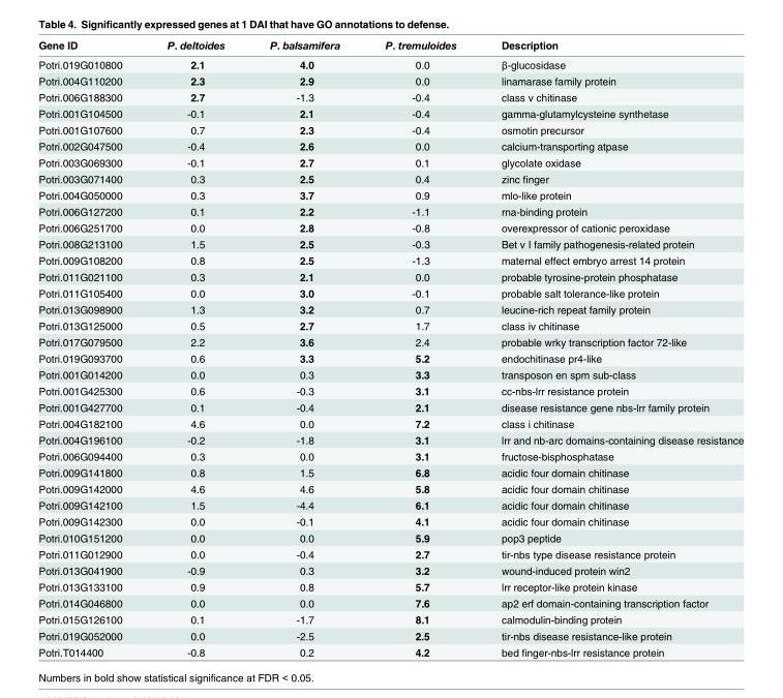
<table><thead><tr><td>Gene ID</td><td>P. deltoides</td><td>P. balsamifera</td><td>P. tremuloides</td><td>Description</td></tr></thead><tbody><tr><td>Potri.019G010800</td><td>2.1</td><td>4.0</td><td>0.0</td><td>β-glucosidase</td></tr><tr><td>Potri.004G110200</td><td>2.3</td><td>2.9</td><td>0.0</td><td>linamarase family protein</td></tr><tr><td>Potri.006G188300</td><td>2.7</td><td>-1.3</td><td>-0.4</td><td>class v chitinase</td></tr><tr><td>Potri.001G104500</td><td>-0.1</td><td>2.1</td><td>-0.4</td><td>gamma-glutamylcysteine synthetase</td></tr><tr><td>Potri.001G107600</td><td>0.7</td><td>2.3</td><td>-0.4</td><td>osmotin precursor</td></tr><tr><td>Potri.002G047500</td><td>-0.4</td><td>2.6</td><td>0.0</td><td>calcium-transporting atpase</td></tr><tr><td>Potri.003G069300</td><td>-0.1</td><td>2.7</td><td>0.1</td><td>glycolate oxidase</td></tr><tr><td>Potri.003G071400</td><td>0.3</td><td>2.5</td><td>0.4</td><td>zinc finger</td></tr><tr><td>Potri.004G050000</td><td>0.3</td><td>3.7</td><td>0.9</td><td>mlo-like protein</td></tr><tr><td>Potri.006G127200</td><td>0.1</td><td>2.2</td><td>-1.1</td><td>rna-binding protein</td></tr><tr><td>Potri.006G251700</td><td>0.0</td><td>2.8</td><td>-0.8</td><td>overexpressor of cationic peroxidase</td></tr><tr><td>Potri.008G213100</td><td>1.5</td><td>2.5</td><td>-0.3</td><td>Bet v I family pathogenesis-related protein</td></tr><tr><td>Potri.009G108200</td><td>0.8</td><td>2.5</td><td>-1.3</td><td>maternal effect embryo arrest 14 protein</td></tr><tr><td>Potri.011G021100</td><td>0.3</td><td>2.1</td><td>0.0</td><td>probable tyrosine-protein phosphatase</td></tr><tr><td>Potri.011G105400</td><td>0.0</td><td>3.0</td><td>-0.1</td><td>probable salt tolerance-like protein</td></tr><tr><td>Potri.013G098900</td><td>1.3</td><td>3.2</td><td>0.7</td><td>leucine-rich repeat family protein</td></tr><tr><td>Potri.013G125000</td><td>0.5</td><td>2.7</td><td>1.7</td><td>class iv chitinase</td></tr><tr><td>Potri.017G079500</td><td>2.2</td><td>3.6</td><td>2.4</td><td>probable wrky transcription factor 72-like</td></tr><tr><td>Potri.019G093700</td><td>0.6</td><td>3.3</td><td>5.2</td><td>endochitinase pr4-like</td></tr><tr><td>Potri.001G014200</td><td>0.0</td><td>0.3</td><td>3.3</td><td>transposon en spm sub-class</td></tr><tr><td>Potri.001G425300</td><td>0.6</td><td>-0.3</td><td>3.1</td><td>cc-nbs-lrr resistance protein</td></tr><tr><td>Potri.001G427700</td><td>0.1</td><td>-0.4</td><td>2.1</td><td>disease resistance gene nbs-lrr family protein</td></tr><tr><td>Potri.004G182100</td><td>4.6</td><td>0.0</td><td>7.2</td><td>class i chitinase</td></tr><tr><td>Potri.004G196100</td><td>-0.2</td><td>-1.8</td><td>3.1</td><td>lrr and nb-arc domains-containing disease resistance</td></tr><tr><td>Potri.006G094400</td><td>0.3</td><td>0.0</td><td>3.1</td><td>fructose-bisphosphatase</td></tr><tr><td>Potri.009G141800</td><td>0.8</td><td>1.5</td><td>6.8</td><td>acidic four domain chitinase</td></tr><tr><td>Potri.009G142000</td><td>4.6</td><td>4.6</td><td>5.8</td><td>acidic four domain chitinase</td></tr><tr><td>Potri.009G142100</td><td>1.5</td><td>-4.4</td><td>6.1</td><td>acidic four domain chitinase</td></tr><tr><td>Potri.009G142300</td><td>0.0</td><td>-0.1</td><td>4.1</td><td>acidic four domain chitinase</td></tr><tr><td>Potri.010G151200</td><td>0.0</td><td>0.0</td><td>5.9</td><td>pop3 peptide</td></tr><tr><td>Potri.011G012900</td><td>0.0</td><td>-0.4</td><td>2.7</td><td>tir-nbs type disease resistance protein</td></tr><tr><td>Potri.013G041900</td><td>-0.9</td><td>0.3</td><td>3.2</td><td>wound-induced protein win2</td></tr><tr><td>Potri.013G133100</td><td>0.9</td><td>0.8</td><td>5.7</td><td>lrr receptor-like protein kinase</td></tr><tr><td>Potri.014G046800</td><td>0.0</td><td>0.0</td><td>7.6</td><td>ap2 erf domain-containing transcription factor</td></tr><tr><td>Potri.015G126100</td><td>0.1</td><td>-1.7</td><td>8.1</td><td>calmodulin-binding protein</td></tr><tr><td>Potri.019G052000</td><td>0.0</td><td>-2.5</td><td>2.5</td><td>tir-nbs disease resistance-like protein</td></tr><tr><td>Potri.T014400</td><td>-0.8</td><td>0.2</td><td>4.2</td><td>bed finger-nbs-lrr resistance protein</td></tr></tbody></table>